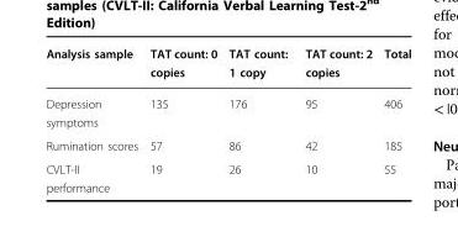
<table><thead><tr><td>Analysis sample</td><td>TAT count: 0 copies</td><td>TAT count: 1 copy</td><td>TAT count: 2 copies</td><td>Total</td></tr></thead><tbody><tr><td>Depression symptoms</td><td>135</td><td>176</td><td>95</td><td>406</td></tr><tr><td>Rumination scores</td><td>57</td><td>86</td><td>42</td><td>185</td></tr><tr><td>CVLT-II performance</td><td>19</td><td>26</td><td>10</td><td>55</td></tr></tbody></table>